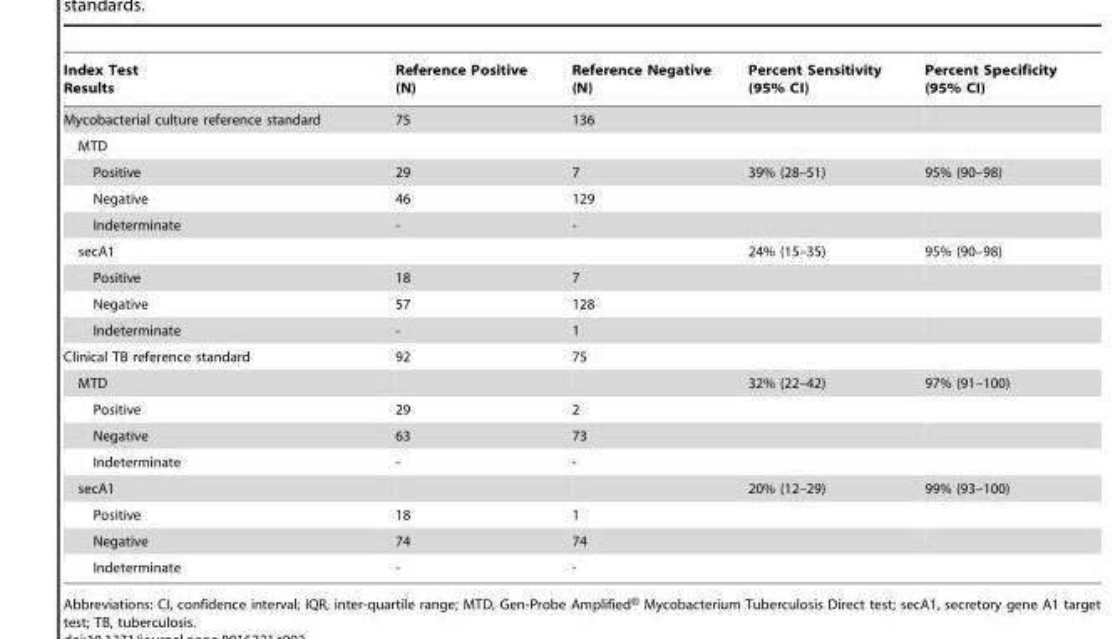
<table><thead><tr><td>Index Test Results</td><td>Reference Positive (N)</td><td>Reference Negative (N)</td><td>Percent Sensitivity (95% CI)</td><td>Percent Specificity (95% CI)</td></tr></thead><tbody><tr><td>Mycobacterial culture reference standard</td><td>75</td><td>136</td><td></td><td></td></tr><tr><td colspan="5">MTD</td></tr><tr><td>Positive</td><td>29</td><td>7</td><td>39% (28–51)</td><td>95% (90–98)</td></tr><tr><td>Negative</td><td>46</td><td>129</td><td></td><td></td></tr><tr><td>Indeterminate</td><td>-</td><td>-</td><td></td><td></td></tr><tr><td>secA1</td><td></td><td></td><td>24% (15–35)</td><td>95% (90–98)</td></tr><tr><td>Positive</td><td>18</td><td>7</td><td></td><td></td></tr><tr><td>Negative</td><td>57</td><td>128</td><td></td><td></td></tr><tr><td>Indeterminate</td><td>-</td><td>1</td><td></td><td></td></tr><tr><td>Clinical TB reference standard</td><td>92</td><td>75</td><td></td><td></td></tr><tr><td>MTD</td><td></td><td></td><td>32% (22–42)</td><td>97% (91–100)</td></tr><tr><td>Positive</td><td>29</td><td>2</td><td></td><td></td></tr><tr><td>Negative</td><td>63</td><td>73</td><td></td><td></td></tr><tr><td>Indeterminate</td><td>-</td><td>-</td><td></td><td></td></tr><tr><td>secA1</td><td></td><td></td><td>20% (12–29)</td><td>99% (93–100)</td></tr><tr><td>Positive</td><td>18</td><td>1</td><td></td><td></td></tr><tr><td>Negative</td><td>74</td><td>74</td><td></td><td></td></tr><tr><td>Indeterminate</td><td>-</td><td>-</td><td></td><td></td></tr></tbody></table>